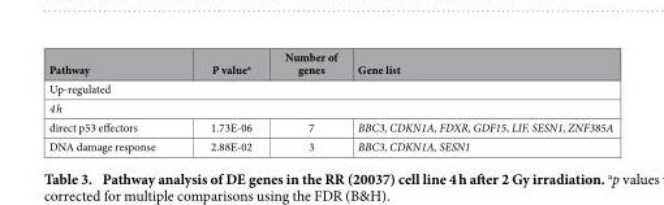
<table><thead><tr><td>Pathway</td><td>P value<sup>a</sup></td><td>Number of genes</td><td>Gene list</td></tr></thead><tbody><tr><td colspan="4">Up-regulated</td></tr><tr><td colspan="4">4 h</td></tr><tr><td>direct p53 effectors</td><td>1.73E-06</td><td>7</td><td>BBC3, CDKN1A, FDXR, GDF15, LIF, SESN1, ZNF385A</td></tr><tr><td>DNA damage response</td><td>2.88E-02</td><td>3</td><td>BBC3, CDKN1A, SESN1</td></tr></tbody></table>